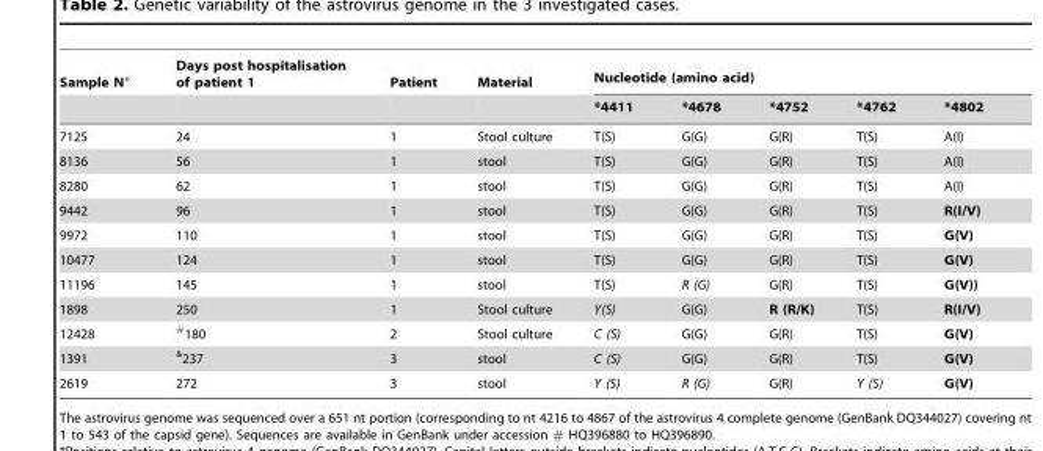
<table><thead><tr><td rowspan="2">Sample N°</td><td rowspan="2">Days post hospitalisation of patient 1</td><td rowspan="2">Patient</td><td rowspan="2">Material</td><td colspan="5">Nucleotide (amino acid)</td></tr><tr><td>*4411</td><td>*4678</td><td>*4752</td><td>*4762</td><td>*4802</td></tr></thead><tbody><tr><td>7125</td><td>24</td><td>1</td><td>Stool culture</td><td>T(S)</td><td>G(G)</td><td>G(R)</td><td>T(S)</td><td>A(I)</td></tr><tr><td>8136</td><td>56</td><td>1</td><td>stool</td><td>T(S)</td><td>G(G)</td><td>G(R)</td><td>T(S)</td><td>A(I)</td></tr><tr><td>8280</td><td>62</td><td>1</td><td>stool</td><td>T(S)</td><td>G(G)</td><td>G(R)</td><td>T(S)</td><td>A(I)</td></tr><tr><td>9442</td><td>96</td><td>1</td><td>stool</td><td>T(S)</td><td>G(G)</td><td>G(R)</td><td>T(S)</td><td>R(I/V)</td></tr><tr><td>9972</td><td>110</td><td>1</td><td>stool</td><td>T(S)</td><td>G(G)</td><td>G(R)</td><td>T(S)</td><td>G(V)</td></tr><tr><td>10477</td><td>124</td><td>1</td><td>stool</td><td>T(S)</td><td>G(G)</td><td>G(R)</td><td>T(S)</td><td>G(V)</td></tr><tr><td>11196</td><td>145</td><td>1</td><td>stool</td><td>T(S)</td><td>R (G)</td><td>G(R)</td><td>T(S)</td><td>G(V))</td></tr><tr><td>1898</td><td>250</td><td>1</td><td>Stool culture</td><td>Y(S)</td><td>G(G)</td><td>R (R/K)</td><td>T(S)</td><td>R(I/V)</td></tr><tr><td>12428</td><td>#180</td><td>2</td><td>Stool culture</td><td>C (S)</td><td>G(G)</td><td>G(R)</td><td>T(S)</td><td>G(V)</td></tr><tr><td>1391</td><td>&amp;237</td><td>3</td><td>stool</td><td>C (S)</td><td>G(G)</td><td>G(R)</td><td>T(S)</td><td>G(V)</td></tr><tr><td>2619</td><td>272</td><td>3</td><td>stool</td><td>Y (S)</td><td>R (G)</td><td>G(R)</td><td>Y (S)</td><td>G(V)</td></tr></tbody></table>